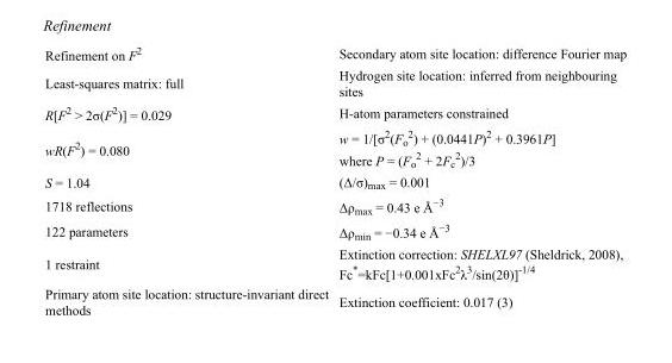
<table><tbody><tr><td>Refinement on F<sup>2</sup></td><td>Secondary atom site location: difference Fourier map</td></tr><tr><td>Least-squares matrix: full</td><td>Hydrogen site location: inferred from neighbouring sites</td></tr><tr><td>R[F<sup>2</sup> &gt; 2σ(F<sup>2</sup>)] = 0.029</td><td>H-atom parameters constrained</td></tr><tr><td>wR(F<sup>2</sup>) = 0.080</td><td>w = 1/[σ<sup>2</sup>(F<sub>o</sub> <sup>2</sup>) + (0.0441P)<sup>2</sup> + 0.3961P] where P = (F<sub>o</sub> <sup>2</sup> + 2F<sub>c</sub> <sup>2</sup>)/3</td></tr><tr><td>S = 1.04</td><td>(Δ/σ)<sub>max</sub> = 0.001</td></tr><tr><td>1718 reflections</td><td>Δρ<sub>max</sub> = 0.43 e Å<sup>−3</sup></td></tr><tr><td>122 parameters</td><td>Δρ<sub>min</sub> = −0.34 e Å<sup>−3</sup></td></tr><tr><td>1 restraint</td><td>Extinction correction: SHELXL97 (Sheldrick, 2008), Fc*=kFc[1+0.001xFc<sup>2</sup>λ<sup>3</sup>/sin(2θ)]<sup>-1/4</sup></td></tr><tr><td>Primary atom site location: structure-invariant direct methods</td><td>Extinction coefficient: 0.017 (3)</td></tr></tbody></table>